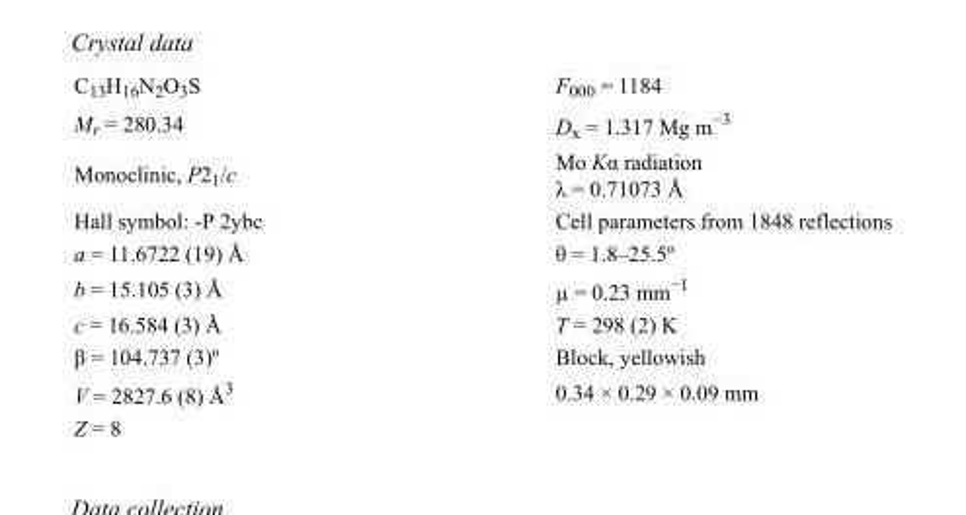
<table><tbody><tr><td>C<sub>13</sub>H<sub>16</sub>N<sub>2</sub>O<sub>3</sub>S</td><td>F000 = 1184</td></tr><tr><td>M<sub>r</sub> = 280.34</td><td>D<sub>x</sub> = 1.317 Mg m<sup>−3</sup></td></tr><tr><td>Monoclinic, P2<sub>1</sub>/c</td><td>Mo Kα radiation λ = 0.71073 Å</td></tr><tr><td>Hall symbol: -P 2ybc</td><td>Cell parameters from 1848 reflections</td></tr><tr><td>a = 11.6722 (19) Å</td><td>θ = 1.8–25.5º</td></tr><tr><td>b = 15.105 (3) Å</td><td>µ = 0.23 mm<sup>−1</sup></td></tr><tr><td>c = 16.584 (3) Å</td><td>T = 298 (2) K</td></tr><tr><td>β = 104.737 (3)º</td><td>Block, yellowish</td></tr><tr><td>V = 2827.6 (8) Å<sup>3</sup></td><td>0.34 × 0.29 × 0.09 mm</td></tr><tr><td>Z = 8</td><td></td></tr></tbody></table>